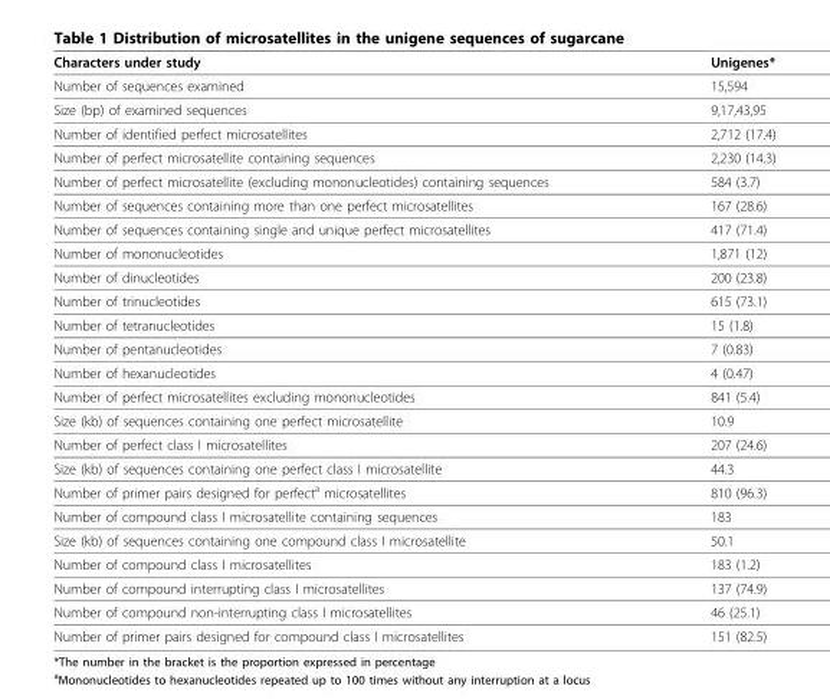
<table><thead><tr><td>Characters under study</td><td>Unigenes*</td></tr></thead><tbody><tr><td>Number of sequences examined</td><td>15,594</td></tr><tr><td>Size (bp) of examined sequences</td><td>9,17,43,95</td></tr><tr><td>Number of identified perfect microsatellites</td><td>2,712 (17.4)</td></tr><tr><td>Number of perfect microsatellite containing sequences</td><td>2,230 (14.3)</td></tr><tr><td>Number of perfect microsatellite (excluding mononucleotides) containing sequences</td><td>584 (3.7)</td></tr><tr><td>Number of sequences containing more than one perfect microsatellites</td><td>167 (28.6)</td></tr><tr><td>Number of sequences containing single and unique perfect microsatellites</td><td>417 (71.4)</td></tr><tr><td>Number of mononucleotides</td><td>1,871 (12)</td></tr><tr><td>Number of dinucleotides</td><td>200 (23.8)</td></tr><tr><td>Number of trinucleotides</td><td>615 (73.1)</td></tr><tr><td>Number of tetranucleotides</td><td>15 (1.8)</td></tr><tr><td>Number of pentanucleotides</td><td>7 (0.83)</td></tr><tr><td>Number of hexanucleotides</td><td>4 (0.47)</td></tr><tr><td>Number of perfect microsatellites excluding mononucleotides</td><td>841 (5.4)</td></tr><tr><td>Size (kb) of sequences containing one perfect microsatellite</td><td>10.9</td></tr><tr><td>Number of perfect class I microsatellites</td><td>207 (24.6)</td></tr><tr><td>Size (kb) of sequences containing one perfect class I microsatellite</td><td>44.3</td></tr><tr><td>Number of primer pairs designed for perfect<sup>a</sup> microsatellites</td><td>810 (96.3)</td></tr><tr><td>Number of compound class I microsatellite containing sequences</td><td>183</td></tr><tr><td>Size (kb) of sequences containing one compound class I microsatellite</td><td>50.1</td></tr><tr><td>Number of compound class I microsatellites</td><td>183 (1.2)</td></tr><tr><td>Number of compound interrupting class I microsatellites</td><td>137 (74.9)</td></tr><tr><td>Number of compound non-interrupting class I microsatellites</td><td>46 (25.1)</td></tr><tr><td>Number of primer pairs designed for compound class I microsatellites</td><td>151 (82.5)</td></tr></tbody></table>